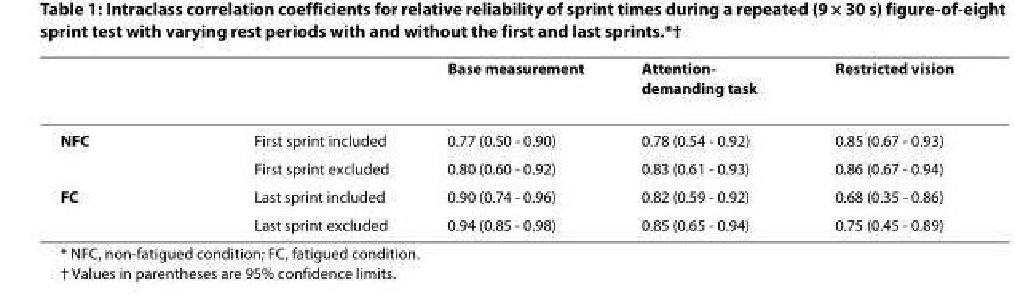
<table><thead><tr><td></td><td></td><td>Base measurement</td><td>Attention- demanding task</td><td>Restricted vision</td></tr></thead><tbody><tr><td rowspan="2">NFC</td><td>First sprint included</td><td>0.77 (0.50 - 0.90)</td><td>0.78 (0.54 - 0.92)</td><td>0.85 (0.67 - 0.93)</td></tr><tr><td>First sprint excluded</td><td>0.80 (0.60 - 0.92)</td><td>0.83 (0.61 - 0.93)</td><td>0.86 (0.67 - 0.94)</td></tr><tr><td rowspan="2">FC</td><td>Last sprint included</td><td>0.90 (0.74 - 0.96)</td><td>0.82 (0.59 - 0.92)</td><td>0.68 (0.35 - 0.86)</td></tr><tr><td>Last sprint excluded</td><td>0.94 (0.85 - 0.98)</td><td>0.85 (0.65 - 0.94)</td><td>0.75 (0.45 - 0.89)</td></tr></tbody></table>